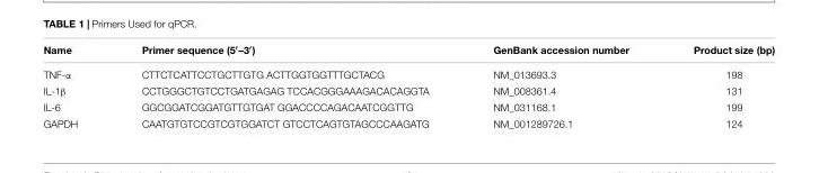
<table><thead><tr><td>Name</td><td>Primer sequence (5′–3′)</td><td>GenBank accession number</td><td>Product size (bp)</td></tr></thead><tbody><tr><td>TNF-α</td><td>CTTCTCATTCCTGCTTGTG ACTTGGTGGTTTGCTACG</td><td>NM_013693.3</td><td>198</td></tr><tr><td>IL-1β</td><td>CCTGGGCTGTCCTGATGAGAG TCCACGGGAAAGACACAGGTA</td><td>NM_008361.4</td><td>131</td></tr><tr><td>IL-6</td><td>GGCGGATCGGATGTTGTGAT GGACCCCAGACAATCGGTTG</td><td>NM_031168.1</td><td>199</td></tr><tr><td>GAPDH</td><td>CAATGTGTCCGTCGTGGATCT GTCCTCAGTGTAGCCCAAGATG</td><td>NM_001289726.1</td><td>124</td></tr></tbody></table>